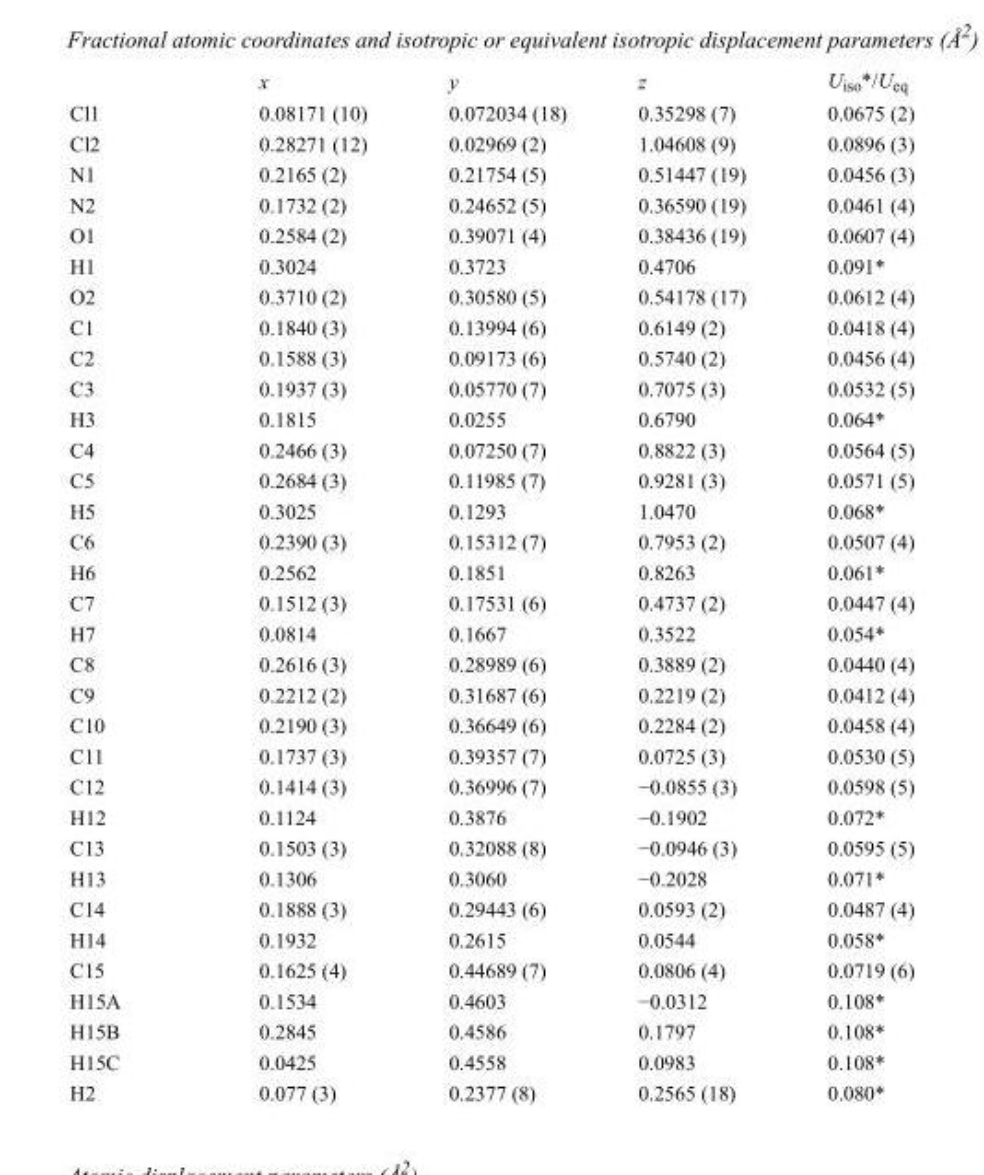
<table><thead><tr><td></td><td>x</td><td>y</td><td>z</td><td>U<sub>iso</sub>*/U<sub>eq</sub></td></tr></thead><tbody><tr><td>Cl1</td><td>0.08171 (10)</td><td>0.072034 (18)</td><td>0.35298 (7)</td><td>0.0675 (2)</td></tr><tr><td>Cl2</td><td>0.28271 (12)</td><td>0.02969 (2)</td><td>1.04608 (9)</td><td>0.0896 (3)</td></tr><tr><td>N1</td><td>0.2165 (2)</td><td>0.21754 (5)</td><td>0.51447 (19)</td><td>0.0456 (3)</td></tr><tr><td>N2</td><td>0.1732 (2)</td><td>0.24652 (5)</td><td>0.36590 (19)</td><td>0.0461 (4)</td></tr><tr><td>O1</td><td>0.2584 (2)</td><td>0.39071 (4)</td><td>0.38436 (19)</td><td>0.0607 (4)</td></tr><tr><td>H1</td><td>0.3024</td><td>0.3723</td><td>0.4706</td><td>0.091*</td></tr><tr><td>O2</td><td>0.3710 (2)</td><td>0.30580 (5)</td><td>0.54178 (17)</td><td>0.0612 (4)</td></tr><tr><td>C1</td><td>0.1840 (3)</td><td>0.13994 (6)</td><td>0.6149 (2)</td><td>0.0418 (4)</td></tr><tr><td>C2</td><td>0.1588 (3)</td><td>0.09173 (6)</td><td>0.5740 (2)</td><td>0.0456 (4)</td></tr><tr><td>C3</td><td>0.1937 (3)</td><td>0.05770 (7)</td><td>0.7075 (3)</td><td>0.0532 (5)</td></tr><tr><td>H3</td><td>0.1815</td><td>0.0255</td><td>0.6790</td><td>0.064*</td></tr><tr><td>C4</td><td>0.2466 (3)</td><td>0.07250 (7)</td><td>0.8822 (3)</td><td>0.0564 (5)</td></tr><tr><td>C5</td><td>0.2684 (3)</td><td>0.11985 (7)</td><td>0.9281 (3)</td><td>0.0571 (5)</td></tr><tr><td>H5</td><td>0.3025</td><td>0.1293</td><td>1.0470</td><td>0.068*</td></tr><tr><td>C6</td><td>0.2390 (3)</td><td>0.15312 (7)</td><td>0.7953 (2)</td><td>0.0507 (4)</td></tr><tr><td>H6</td><td>0.2562</td><td>0.1851</td><td>0.8263</td><td>0.061*</td></tr><tr><td>C7</td><td>0.1512 (3)</td><td>0.17531 (6)</td><td>0.4737 (2)</td><td>0.0447 (4)</td></tr><tr><td>H7</td><td>0.0814</td><td>0.1667</td><td>0.3522</td><td>0.054*</td></tr><tr><td>C8</td><td>0.2616 (3)</td><td>0.28989 (6)</td><td>0.3889 (2)</td><td>0.0440 (4)</td></tr><tr><td>C9</td><td>0.2212 (2)</td><td>0.31687 (6)</td><td>0.2219 (2)</td><td>0.0412 (4)</td></tr><tr><td>C10</td><td>0.2190 (3)</td><td>0.36649 (6)</td><td>0.2284 (2)</td><td>0.0458 (4)</td></tr><tr><td>C11</td><td>0.1737 (3)</td><td>0.39357 (7)</td><td>0.0725 (3)</td><td>0.0530 (5)</td></tr><tr><td>C12</td><td>0.1414 (3)</td><td>0.36996 (7)</td><td>−0.0855 (3)</td><td>0.0598 (5)</td></tr><tr><td>H12</td><td>0.1124</td><td>0.3876</td><td>−0.1902</td><td>0.072*</td></tr><tr><td>C13</td><td>0.1503 (3)</td><td>0.32088 (8)</td><td>−0.0946 (3)</td><td>0.0595 (5)</td></tr><tr><td>H13</td><td>0.1306</td><td>0.3060</td><td>−0.2028</td><td>0.071*</td></tr><tr><td>C14</td><td>0.1888 (3)</td><td>0.29443 (6)</td><td>0.0593 (2)</td><td>0.0487 (4)</td></tr><tr><td>H14</td><td>0.1932</td><td>0.2615</td><td>0.0544</td><td>0.058*</td></tr><tr><td>C15</td><td>0.1625 (4)</td><td>0.44689 (7)</td><td>0.0806 (4)</td><td>0.0719 (6)</td></tr><tr><td>H15A</td><td>0.1534</td><td>0.4603</td><td>−0.0312</td><td>0.108*</td></tr><tr><td>H15B</td><td>0.2845</td><td>0.4586</td><td>0.1797</td><td>0.108*</td></tr><tr><td>H15C</td><td>0.0425</td><td>0.4558</td><td>0.0983</td><td>0.108*</td></tr><tr><td>H2</td><td>0.077 (3)</td><td>0.2377 (8)</td><td>0.2565 (18)</td><td>0.080*</td></tr></tbody></table>